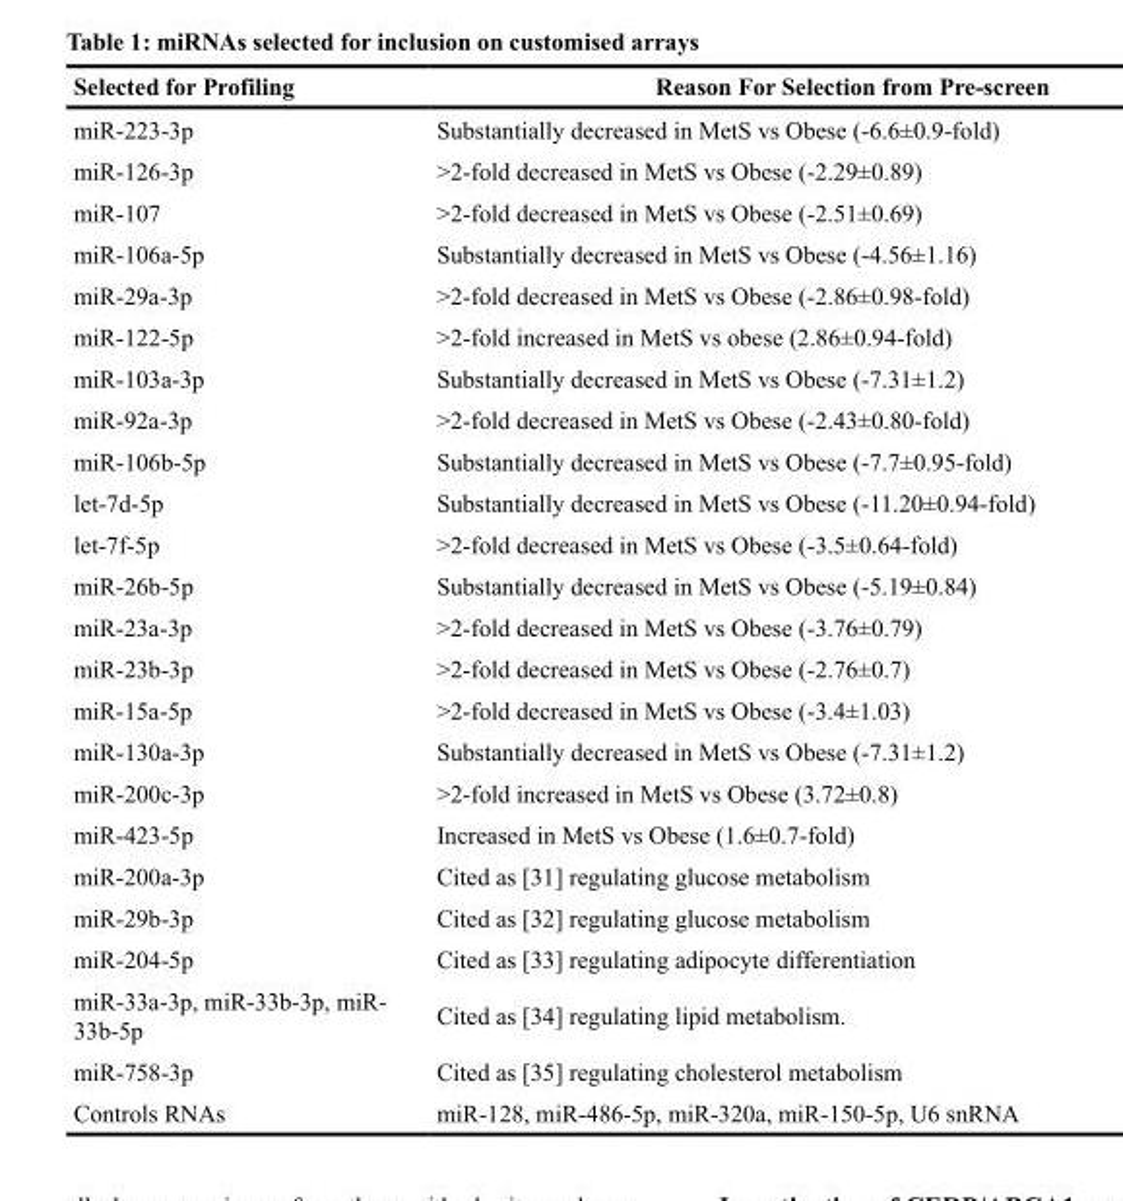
<table><thead><tr><td>Selected for Profiling</td><td>Reason For Selection from Pre-screen</td></tr></thead><tbody><tr><td>miR-223-3p</td><td>Substantially decreased in MetS vs Obese (-6.6±0.9-fold)</td></tr><tr><td>miR-126-3p</td><td>&gt;2-fold decreased in MetS vs Obese (-2.29±0.89)</td></tr><tr><td>miR-107</td><td>&gt;2-fold decreased in MetS vs Obese (-2.51±0.69)</td></tr><tr><td>miR-106a-5p</td><td>Substantially decreased in MetS vs Obese (-4.56±1.16)</td></tr><tr><td>miR-29a-3p</td><td>&gt;2-fold decreased in MetS vs Obese (-2.86±0.98-fold)</td></tr><tr><td>miR-122-5p</td><td>&gt;2-fold increased in MetS vs obese (2.86±0.94-fold)</td></tr><tr><td>miR-103a-3p</td><td>Substantially decreased in MetS vs Obese (-7.31±1.2)</td></tr><tr><td>miR-92a-3p</td><td>&gt;2-fold decreased in MetS vs Obese (-2.43±0.80-fold)</td></tr><tr><td>miR-106b-5p</td><td>Substantially decreased in MetS vs Obese (-7.7±0.95-fold)</td></tr><tr><td>let-7d-5p</td><td>Substantially decreased in MetS vs Obese (-11.20±0.94-fold)</td></tr><tr><td>let-7f-5p</td><td>&gt;2-fold decreased in MetS vs Obese (-3.5±0.64-fold)</td></tr><tr><td>miR-26b-5p</td><td>Substantially decreased in MetS vs Obese (-5.19±0.84)</td></tr><tr><td>miR-23a-3p</td><td>&gt;2-fold decreased in MetS vs Obese (-3.76±0.79)</td></tr><tr><td>miR-23b-3p</td><td>&gt;2-fold decreased in MetS vs Obese (-2.76±0.7)</td></tr><tr><td>miR-15a-5p</td><td>&gt;2-fold decreased in MetS vs Obese (-3.4±1.03)</td></tr><tr><td>miR-130a-3p</td><td>Substantially decreased in MetS vs Obese (-7.31±1.2)</td></tr><tr><td>miR-200c-3p</td><td>&gt;2-fold increased in MetS vs Obese (3.72±0.8)</td></tr><tr><td>miR-423-5p</td><td>Increased in MetS vs Obese (1.6±0.7-fold)</td></tr><tr><td>miR-200a-3p</td><td>Cited as [31] regulating glucose metabolism</td></tr><tr><td>miR-29b-3p</td><td>Cited as [32] regulating glucose metabolism</td></tr><tr><td>miR-204-5p</td><td>Cited as [33] regulating adipocyte differentiation</td></tr><tr><td>miR-33a-3p, miR-33b-3p, miR- 33b-5p</td><td>Cited as [34] regulating lipid metabolism.</td></tr><tr><td>miR-758-3p</td><td>Cited as [35] regulating cholesterol metabolism</td></tr><tr><td>Controls RNAs</td><td>miR-128, miR-486-5p, miR-320a, miR-150-5p, U6 snRNA</td></tr></tbody></table>